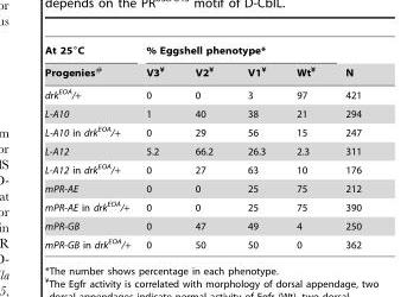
<table><thead><tr><td rowspan="2">At 25°C Progenies#</td><td colspan="4">% Eggshell phenotype*</td><td rowspan="2">N</td></tr><tr><td>V3¥</td><td>V2¥</td><td>V1¥</td><td>Wt¥</td></tr></thead><tbody><tr><td>drk<sup>EOA</sup>/+</td><td>0</td><td>0</td><td>3</td><td>97</td><td>421</td></tr><tr><td>L-A10</td><td>1</td><td>40</td><td>38</td><td>21</td><td>294</td></tr><tr><td>L-A10 in drk<sup>EOA</sup>/+</td><td>0</td><td>29</td><td>56</td><td>15</td><td>247</td></tr><tr><td>L-A12</td><td>5.2</td><td>66.2</td><td>26.3</td><td>2.3</td><td>311</td></tr><tr><td>L-A12 in drk<sup>EOA</sup>/+</td><td>0</td><td>27</td><td>63</td><td>10</td><td>176</td></tr><tr><td>mPR-AE</td><td>0</td><td>0</td><td>25</td><td>75</td><td>212</td></tr><tr><td>mPR-AE in drk<sup>EOA</sup>/+</td><td>0</td><td>0</td><td>25</td><td>75</td><td>390</td></tr><tr><td>mPR-GB</td><td>0</td><td>47</td><td>49</td><td>4</td><td>250</td></tr><tr><td>mPR-GB in drk<sup>EOA</sup>/+</td><td>0</td><td>50</td><td>50</td><td>0</td><td>362</td></tr></tbody></table>